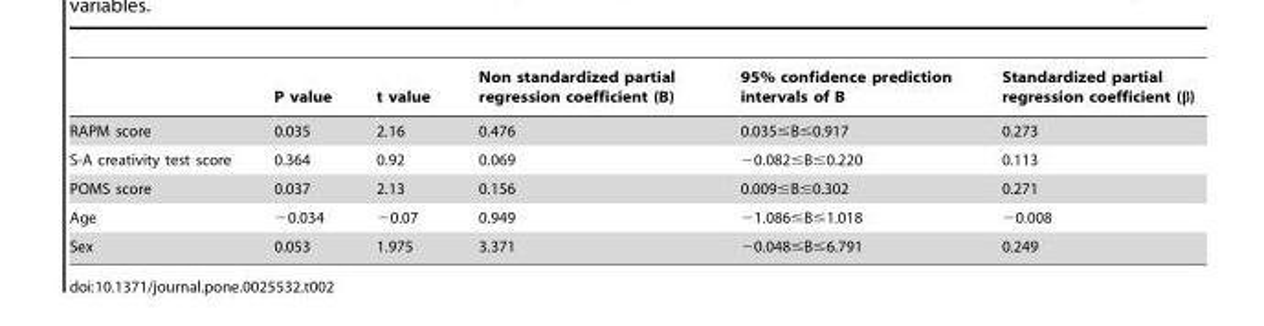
<table><thead><tr><td></td><td>P value</td><td>t value</td><td>Non standardized partial regression coefficient (B)</td><td>95% confidence prediction intervals of B</td><td>Standardized partial regression coefficient (β)</td></tr></thead><tbody><tr><td>RAPM score</td><td>0.035</td><td>2.16</td><td>0.476</td><td>0.035≤B≤0.917</td><td>0.273</td></tr><tr><td>S-A creativity test score</td><td>0.364</td><td>0.92</td><td>0.069</td><td>−0.082≤B≤0.220</td><td>0.113</td></tr><tr><td>POMS score</td><td>0.037</td><td>2.13</td><td>0.156</td><td>0.009≤B≤0.302</td><td>0.271</td></tr><tr><td>Age</td><td>−0.034</td><td>−0.07</td><td>0.949</td><td>−1.086≤B≤1.018</td><td>−0.008</td></tr><tr><td>Sex</td><td>0.053</td><td>1.975</td><td>3.371</td><td>−0.048≤B≤6.791</td><td>0.249</td></tr></tbody></table>